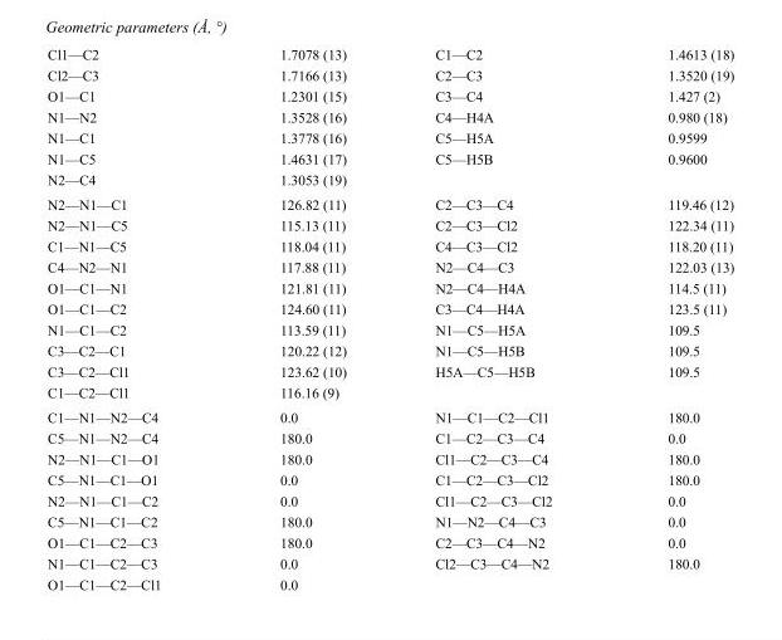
<table><tbody><tr><td>Cl1—C2</td><td>1.7078 (13)</td><td>C1—C2</td><td>1.4613 (18)</td></tr><tr><td>Cl2—C3</td><td>1.7166 (13)</td><td>C2—C3</td><td>1.3520 (19)</td></tr><tr><td>O1—C1</td><td>1.2301 (15)</td><td>C3—C4</td><td>1.427 (2)</td></tr><tr><td>N1—N2</td><td>1.3528 (16)</td><td>C4—H4A</td><td>0.980 (18)</td></tr><tr><td>N1—C1</td><td>1.3778 (16)</td><td>C5—H5A</td><td>0.9599</td></tr><tr><td>N1—C5</td><td>1.4631 (17)</td><td>C5—H5B</td><td>0.9600</td></tr><tr><td>N2—C4</td><td>1.3053 (19)</td><td></td><td></td></tr><tr><td>N2—N1—C1</td><td>126.82 (11)</td><td>C2—C3—C4</td><td>119.46 (12)</td></tr><tr><td>N2—N1—C5</td><td>115.13 (11)</td><td>C2—C3—Cl2</td><td>122.34 (11)</td></tr><tr><td>C1—N1—C5</td><td>118.04 (11)</td><td>C4—C3—Cl2</td><td>118.20 (11)</td></tr><tr><td>C4—N2—N1</td><td>117.88 (11)</td><td>N2—C4—C3</td><td>122.03 (13)</td></tr><tr><td>O1—C1—N1</td><td>121.81 (11)</td><td>N2—C4—H4A</td><td>114.5 (11)</td></tr><tr><td>O1—C1—C2</td><td>124.60 (11)</td><td>C3—C4—H4A</td><td>123.5 (11)</td></tr><tr><td>N1—C1—C2</td><td>113.59 (11)</td><td>N1—C5—H5A</td><td>109.5</td></tr><tr><td>C3—C2—C1</td><td>120.22 (12)</td><td>N1—C5—H5B</td><td>109.5</td></tr><tr><td>C3—C2—Cl1</td><td>123.62 (10)</td><td>H5A—C5—H5B</td><td>109.5</td></tr><tr><td>C1—C2—Cl1</td><td>116.16 (9)</td><td></td><td></td></tr><tr><td>C1—N1—N2—C4</td><td>0.0</td><td>N1—C1—C2—Cl1</td><td>180.0</td></tr><tr><td>C5—N1—N2—C4</td><td>180.0</td><td>C1—C2—C3—C4</td><td>0.0</td></tr><tr><td>N2—N1—C1—O1</td><td>180.0</td><td>Cl1—C2—C3—C4</td><td>180.0</td></tr><tr><td>C5—N1—C1—O1</td><td>0.0</td><td>C1—C2—C3—Cl2</td><td>180.0</td></tr><tr><td>N2—N1—C1—C2</td><td>0.0</td><td>Cl1—C2—C3—Cl2</td><td>0.0</td></tr><tr><td>C5—N1—C1—C2</td><td>180.0</td><td>N1—N2—C4—C3</td><td>0.0</td></tr><tr><td>O1—C1—C2—C3</td><td>180.0</td><td>C2—C3—C4—N2</td><td>0.0</td></tr><tr><td>N1—C1—C2—C3</td><td>0.0</td><td>Cl2—C3—C4—N2</td><td>180.0</td></tr><tr><td>O1—C1—C2—Cl1</td><td>0.0</td><td></td><td></td></tr></tbody></table>